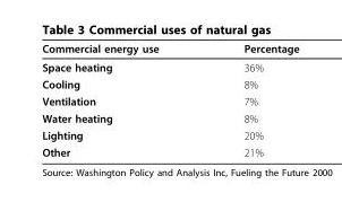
<table><thead><tr><td>Commercial energy use</td><td>Percentage</td></tr></thead><tbody><tr><td>Space heating</td><td>36%</td></tr><tr><td>Cooling</td><td>8%</td></tr><tr><td>Ventilation</td><td>7%</td></tr><tr><td>Water heating</td><td>8%</td></tr><tr><td>Lighting</td><td>20%</td></tr><tr><td>Other</td><td>21%</td></tr></tbody></table>